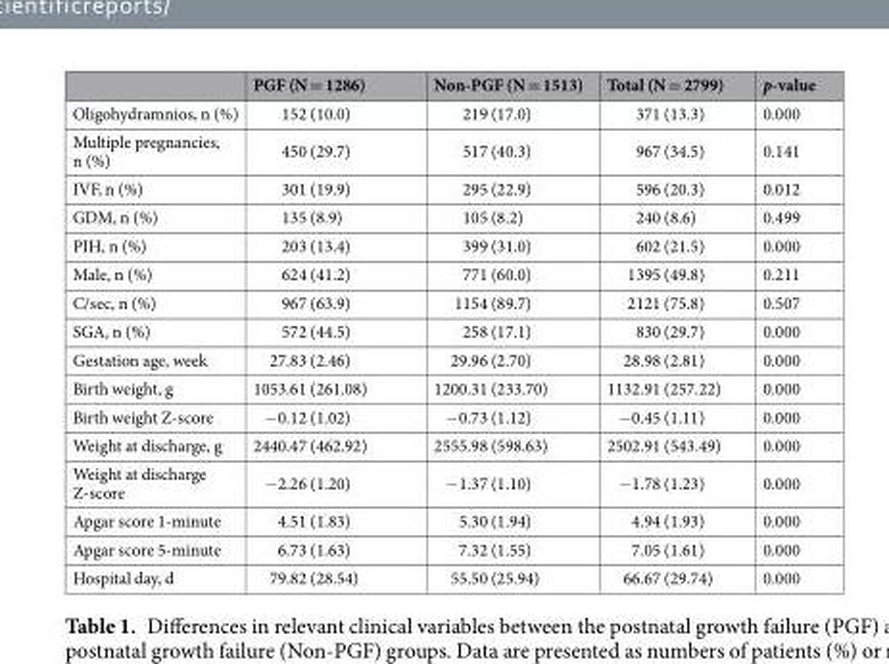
<table><thead><tr><td></td><td>PGF (N = 1286)</td><td>Non-PGF (N = 1513)</td><td>Total (N = 2799)</td><td>p-value</td></tr></thead><tbody><tr><td>Oligohydramnios, n (%)</td><td>152 (10.0)</td><td>219 (17.0)</td><td>371 (13.3)</td><td>0.000</td></tr><tr><td>Multiple pregnancies, n (%)</td><td>450 (29.7)</td><td>517 (40.3)</td><td>967 (34.5)</td><td>0.141</td></tr><tr><td>IVF, n (%)</td><td>301 (19.9)</td><td>295 (22.9)</td><td>596 (20.3)</td><td>0.012</td></tr><tr><td>GDM, n (%)</td><td>135 (8.9)</td><td>105 (8.2)</td><td>240 (8.6)</td><td>0.499</td></tr><tr><td>PIH, n (%)</td><td>203 (13.4)</td><td>399 (31.0)</td><td>602 (21.5)</td><td>0.000</td></tr><tr><td>Male, n (%)</td><td>624 (41.2)</td><td>771 (60.0)</td><td>1395 (49.8)</td><td>0.211</td></tr><tr><td>C/sec, n (%)</td><td>967 (63.9)</td><td>1154 (89.7)</td><td>2121 (75.8)</td><td>0.507</td></tr><tr><td>SGA, n (%)</td><td>572 (44.5)</td><td>258 (17.1)</td><td>830 (29.7)</td><td>0.000</td></tr><tr><td>Gestation age, week</td><td>27.83 (2.46)</td><td>29.96 (2.70)</td><td>28.98 (2.81)</td><td>0.000</td></tr><tr><td>Birth weight, g</td><td>1053.61 (261.08)</td><td>1200.31 (233.70)</td><td>1132.91 (257.22)</td><td>0.000</td></tr><tr><td>Birth weight Z-score</td><td>−0.12 (1.02)</td><td>−0.73 (1.12)</td><td>−0.45 (1.11)</td><td>0.000</td></tr><tr><td>Weight at discharge, g</td><td>2440.47 (462.92)</td><td>2555.98 (598.63)</td><td>2502.91 (543.49)</td><td>0.000</td></tr><tr><td>Weight at discharge Z-score</td><td>−2.26 (1.20)</td><td>−1.37 (1.10)</td><td>−1.78 (1.23)</td><td>0.000</td></tr><tr><td>Apgar score 1-minute</td><td>4.51 (1.83)</td><td>5.30 (1.94)</td><td>4.94 (1.93)</td><td>0.000</td></tr><tr><td>Apgar score 5-minute</td><td>6.73 (1.63)</td><td>7.32 (1.55)</td><td>7.05 (1.61)</td><td>0.000</td></tr><tr><td>Hospital day, d</td><td>79.82 (28.54)</td><td>55.50 (25.94)</td><td>66.67 (29.74)</td><td>0.000</td></tr></tbody></table>